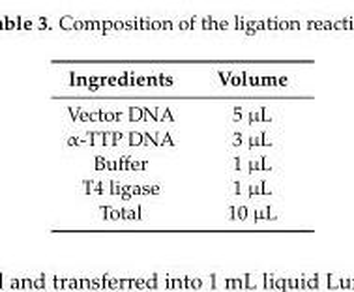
<table><thead><tr><td>Ingredients</td><td>Volume</td></tr></thead><tbody><tr><td>Vector DNA</td><td>5 µL</td></tr><tr><td>α-TTP DNA</td><td>3 µL</td></tr><tr><td>Buffer</td><td>1 µL</td></tr><tr><td>T4 ligase</td><td>1 µL</td></tr><tr><td>Total</td><td>10 µL</td></tr></tbody></table>